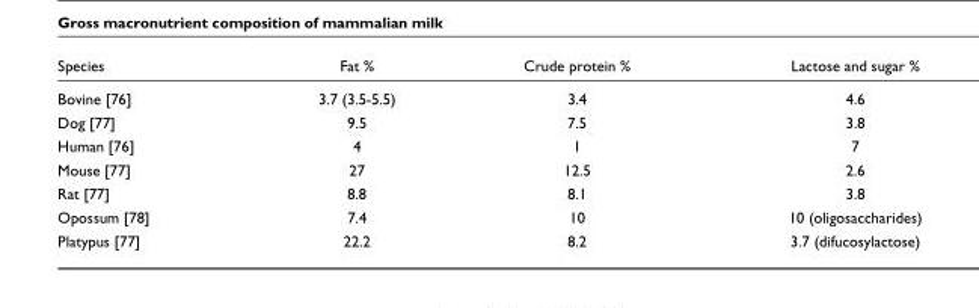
<table><thead><tr><td>Species</td><td>Fat %</td><td>Crude protein %</td><td>Lactose and sugar %</td></tr></thead><tbody><tr><td>Bovine [76]</td><td>3.7 (3.5-5.5)</td><td>3.4</td><td>4.6</td></tr><tr><td>Dog [77]</td><td>9.5</td><td>7.5</td><td>3.8</td></tr><tr><td>Human [76]</td><td>4</td><td>1</td><td>7</td></tr><tr><td>Mouse [77]</td><td>27</td><td>12.5</td><td>2.6</td></tr><tr><td>Rat [77]</td><td>8.8</td><td>8.1</td><td>3.8</td></tr><tr><td>Opossum [78]</td><td>7.4</td><td>10</td><td>10 (oligosaccharides)</td></tr><tr><td>Platypus [77]</td><td>22.2</td><td>8.2</td><td>3.7 (difucosylactose)</td></tr></tbody></table>